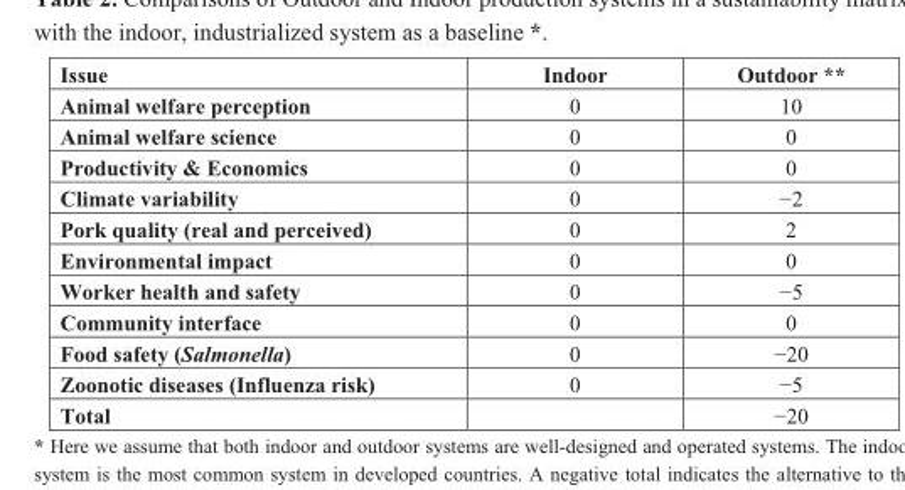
<table><thead><tr><td>Issue</td><td>Indoor</td><td>Outdoor **</td></tr></thead><tbody><tr><td>Animal welfare perception</td><td>0</td><td>10</td></tr><tr><td>Animal welfare science</td><td>0</td><td>0</td></tr><tr><td>Productivity &amp; Economics</td><td>0</td><td>0</td></tr><tr><td>Climate variability</td><td>0</td><td>−2</td></tr><tr><td>Pork quality (real and perceived)</td><td>0</td><td>2</td></tr><tr><td>Environmental impact</td><td>0</td><td>0</td></tr><tr><td>Worker health and safety</td><td>0</td><td>−5</td></tr><tr><td>Community interface</td><td>0</td><td>0</td></tr><tr><td>Food safety (Salmonella)</td><td>0</td><td>−20</td></tr><tr><td>Zoonotic diseases (Influenza risk)</td><td>0</td><td>−5</td></tr><tr><td>Total</td><td></td><td>−20</td></tr></tbody></table>